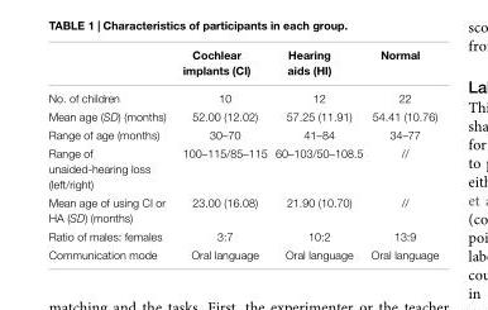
<table><thead><tr><td></td><td>Cochlear implants (CI)</td><td>Hearing aids (HI)</td><td>Normal</td></tr></thead><tbody><tr><td>No. of children</td><td>10</td><td>12</td><td>22</td></tr><tr><td>Mean age (SD) (months)</td><td>52.00 (12.02)</td><td>57.25 (11.91)</td><td>54.41 (10.76)</td></tr><tr><td>Range of age (months)</td><td>30–70</td><td>41–84</td><td>34–77</td></tr><tr><td>Range of unaided-hearing loss (left/right)</td><td>100–115/85–115</td><td>60–103/50–108.5</td><td>//</td></tr><tr><td>Mean age of using CI or HA (SD) (months)</td><td>23.00 (16.08)</td><td>21.90 (10.70)</td><td>//</td></tr><tr><td>Ratio of males: females</td><td>3:7</td><td>10:2</td><td>13:9</td></tr><tr><td>Communication mode</td><td>Oral language</td><td>Oral language</td><td>Oral language</td></tr></tbody></table>